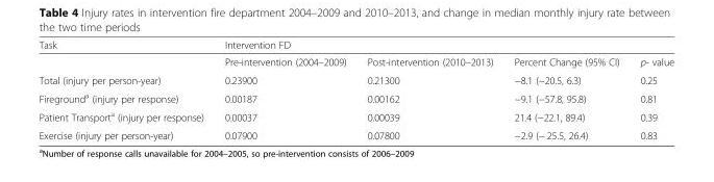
<table><thead><tr><td rowspan="2">Task</td><td colspan="4">Intervention FD</td></tr><tr><td>Pre-intervention (2004–2009)</td><td>Post-intervention (2010–2013)</td><td>Percent Change (95% CI)</td><td>p- value</td></tr></thead><tbody><tr><td>Total (injury per person-year)</td><td>0.23900</td><td>0.21300</td><td>−8.1 (−20.5, 6.3)</td><td>0.25</td></tr><tr><td>Fireground<sup>a</sup> (injury per response)</td><td>0.00187</td><td>0.00162</td><td>−9.1 (−57.8, 95.8)</td><td>0.81</td></tr><tr><td>Patient Transport<sup>a</sup> (injury per response)</td><td>0.00037</td><td>0.00039</td><td>21.4 (−22.1, 89.4)</td><td>0.39</td></tr><tr><td>Exercise (injury per person-year)</td><td>0.07900</td><td>0.07800</td><td>−2.9 (− 25.5, 26.4)</td><td>0.83</td></tr></tbody></table>